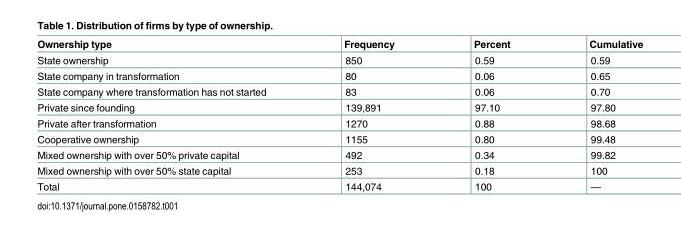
<table><thead><tr><td>Ownership type</td><td>Frequency</td><td>Percent</td><td>Cumulative</td></tr></thead><tbody><tr><td>State ownership</td><td>850</td><td>0.59</td><td>0.59</td></tr><tr><td>State company in transformation</td><td>80</td><td>0.06</td><td>0.65</td></tr><tr><td>State company where transformation has not started</td><td>83</td><td>0.06</td><td>0.70</td></tr><tr><td>Private since founding</td><td>139,891</td><td>97.10</td><td>97.80</td></tr><tr><td>Private after transformation</td><td>1270</td><td>0.88</td><td>98.68</td></tr><tr><td>Cooperative ownership</td><td>1155</td><td>0.80</td><td>99.48</td></tr><tr><td>Mixed ownership with over 50% private capital</td><td>492</td><td>0.34</td><td>99.82</td></tr><tr><td>Mixed ownership with over 50% state capital</td><td>253</td><td>0.18</td><td>100</td></tr><tr><td>Total</td><td>144,074</td><td>100</td><td>—</td></tr></tbody></table>